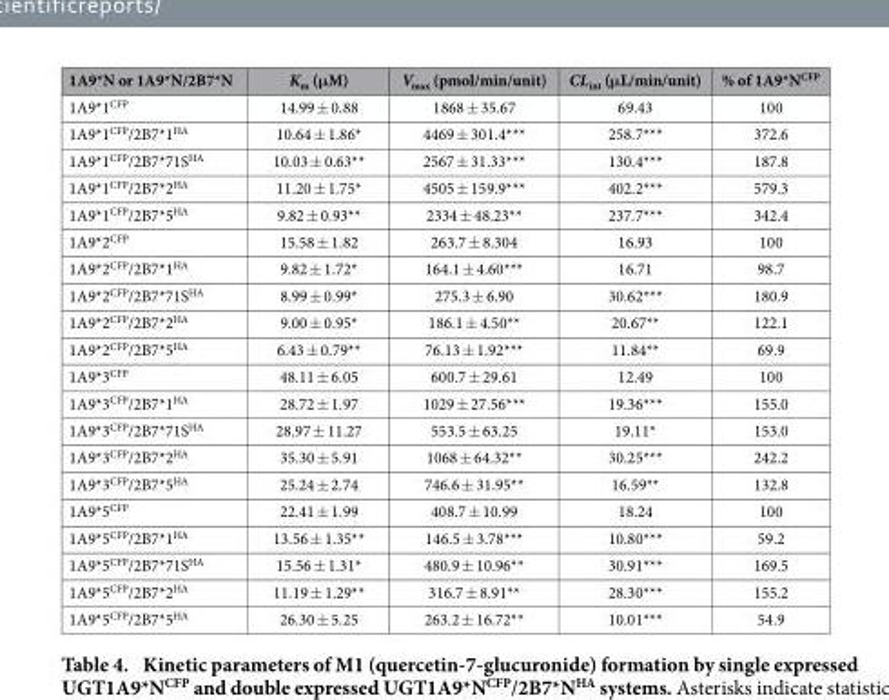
<table><thead><tr><td>1A9*N or 1A9*N/2B7*N</td><td>K<sub>m</sub> (μM)</td><td>V<sub>max</sub> (pmol/min/unit)</td><td>CL<sub>int</sub> (μL/min/unit)</td><td>% of 1A9*N<sup>CFP</sup></td></tr></thead><tbody><tr><td>1A9*1<sup>CFP</sup></td><td>14.99 ± 0.88</td><td>1868 ± 35.67</td><td>69.43</td><td>100</td></tr><tr><td>1A9*1<sup>CFP</sup>/2B7*1<sup>HA</sup></td><td>10.64 ± 1.86*</td><td>4469 ± 301.4***</td><td>258.7***</td><td>372.6</td></tr><tr><td>1A9*1<sup>CFP</sup>/2B7*71S<sup>HA</sup></td><td>10.03 ± 0.63**</td><td>2567 ± 31.33***</td><td>130.4***</td><td>187.8</td></tr><tr><td>1A9*1<sup>CFP</sup>/2B7*2<sup>HA</sup></td><td>11.20 ± 1.75*</td><td>4505 ± 159.9***</td><td>402.2***</td><td>579.3</td></tr><tr><td>1A9*1<sup>CFP</sup>/2B7*5<sup>HA</sup></td><td>9.82 ± 0.93**</td><td>2334 ± 48.23**</td><td>237.7***</td><td>342.4</td></tr><tr><td>1A9*2<sup>CFP</sup></td><td>15.58 ± 1.82</td><td>263.7 ± 8.304</td><td>16.93</td><td>100</td></tr><tr><td>1A9*2<sup>CFP</sup>/2B7*1<sup>HA</sup></td><td>9.82 ± 1.72*</td><td>164.1 ± 4.60***</td><td>16.71</td><td>98.7</td></tr><tr><td>1A9*2<sup>CFP</sup>/2B7*71S<sup>HA</sup></td><td>8.99 ± 0.99*</td><td>275.3 ± 6.90</td><td>30.62***</td><td>180.9</td></tr><tr><td>1A9*2<sup>CFP</sup>/2B7*2<sup>HA</sup></td><td>9.00 ± 0.95*</td><td>186.1 ± 4.50**</td><td>20.67**</td><td>122.1</td></tr><tr><td>1A9*2<sup>CFP</sup>/2B7*5<sup>HA</sup></td><td>6.43 ± 0.79**</td><td>76.13 ± 1.92***</td><td>11.84**</td><td>69.9</td></tr><tr><td>1A9*3<sup>CFP</sup></td><td>48.11 ± 6.05</td><td>600.7 ± 29.61</td><td>12.49</td><td>100</td></tr><tr><td>1A9*3<sup>CFP</sup>/2B7*1<sup>HA</sup></td><td>28.72 ± 1.97</td><td>1029 ± 27.56***</td><td>19.36***</td><td>155.0</td></tr><tr><td>1A9*3<sup>CFP</sup>/2B7*71S<sup>HA</sup></td><td>28.97 ± 11.27</td><td>553.5 ± 63.25</td><td>19.11*</td><td>153.0</td></tr><tr><td>1A9*3<sup>CFP</sup>/2B7*2<sup>HA</sup></td><td>35.30 ± 5.91</td><td>1068 ± 64.32**</td><td>30.25***</td><td>242.2</td></tr><tr><td>1A9*3<sup>CFP</sup>/2B7*5<sup>HA</sup></td><td>25.24 ± 2.74</td><td>746.6 ± 31.95**</td><td>16.59**</td><td>132.8</td></tr><tr><td>1A9*5<sup>CFP</sup></td><td>22.41 ± 1.99</td><td>408.7 ± 10.99</td><td>18.24</td><td>100</td></tr><tr><td>1A9*5<sup>CFP</sup>/2B7*1<sup>HA</sup></td><td>13.56 ± 1.35**</td><td>146.5 ± 3.78***</td><td>10.80***</td><td>59.2</td></tr><tr><td>1A9*5<sup>CFP</sup>/2B7*71S<sup>HA</sup></td><td>15.56 ± 1.31*</td><td>480.9 ± 10.96**</td><td>30.91***</td><td>169.5</td></tr><tr><td>1A9*5<sup>CFP</sup>/2B7*2<sup>HA</sup></td><td>11.19 ± 1.29**</td><td>316.7 ± 8.91**</td><td>28.30***</td><td>155.2</td></tr><tr><td>1A9*5<sup>CFP</sup>/2B7*5<sup>HA</sup></td><td>26.30 ± 5.25</td><td>263.2 ± 16.72**</td><td>10.01***</td><td>54.9</td></tr></tbody></table>